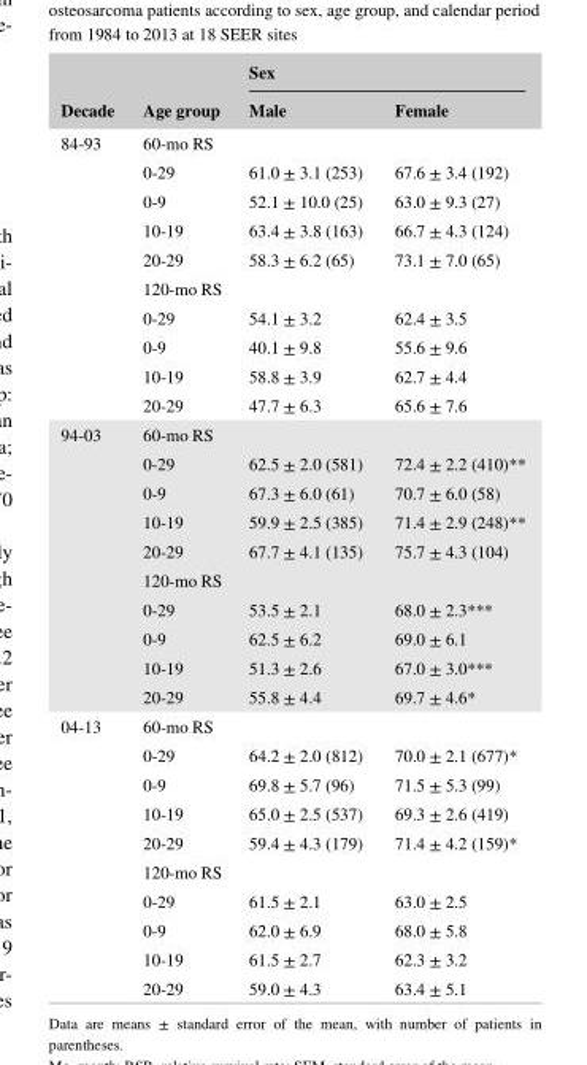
<table><thead><tr><td rowspan="2">Decade</td><td rowspan="2">Age group</td><td colspan="2">Sex</td></tr><tr><td>Male</td><td>Female</td></tr></thead><tbody><tr><td rowspan="10">84- 93</td><td colspan="3">60- mo RS</td></tr><tr><td>0- 29</td><td>61.0 ± 3.1 (253)</td><td>67.6 ± 3.4 (192)</td></tr><tr><td>0- 9</td><td>52.1 ± 10.0 (25)</td><td>63.0 ± 9.3 (27)</td></tr><tr><td>10- 19</td><td>63.4 ± 3.8 (163)</td><td>66.7 ± 4.3 (124)</td></tr><tr><td>20- 29</td><td>58.3 ± 6.2 (65)</td><td>73.1 ± 7.0 (65)</td></tr><tr><td colspan="3">120- mo RS</td></tr><tr><td>0- 29</td><td>54.1 ± 3.2</td><td>62.4 ± 3.5</td></tr><tr><td>0- 9</td><td>40.1 ± 9.8</td><td>55.6 ± 9.6</td></tr><tr><td>10- 19</td><td>58.8 ± 3.9</td><td>62.7 ± 4.4</td></tr><tr><td>20- 29</td><td>47.7 ± 6.3</td><td>65.6 ± 7.6</td></tr><tr><td rowspan="10">94- 03</td><td colspan="3">60- mo RS</td></tr><tr><td>0- 29</td><td>62.5 ± 2.0 (581)</td><td>72.4 ± 2.2 (410)**</td></tr><tr><td>0- 9</td><td>67.3 ± 6.0 (61)</td><td>70.7 ± 6.0 (58)</td></tr><tr><td>10- 19</td><td>59.9 ± 2.5 (385)</td><td>71.4 ± 2.9 (248)**</td></tr><tr><td>20- 29</td><td>67.7 ± 4.1 (135)</td><td>75.7 ± 4.3 (104)</td></tr><tr><td colspan="3">120- mo RS</td></tr><tr><td>0- 29</td><td>53.5 ± 2.1</td><td>68.0 ± 2.3***</td></tr><tr><td>0- 9</td><td>62.5 ± 6.2</td><td>69.0 ± 6.1</td></tr><tr><td>10- 19</td><td>51.3 ± 2.6</td><td>67.0 ± 3.0***</td></tr><tr><td>20- 29</td><td>55.8 ± 4.4</td><td>69.7 ± 4.6*</td></tr><tr><td rowspan="10">04- 13</td><td colspan="3">60- mo RS</td></tr><tr><td>0- 29</td><td>64.2 ± 2.0 (812)</td><td>70.0 ± 2.1 (677)*</td></tr><tr><td>0- 9</td><td>69.8 ± 5.7 (96)</td><td>71.5 ± 5.3 (99)</td></tr><tr><td>10- 19</td><td>65.0 ± 2.5 (537)</td><td>69.3 ± 2.6 (419)</td></tr><tr><td>20- 29</td><td>59.4 ± 4.3 (179)</td><td>71.4 ± 4.2 (159)*</td></tr><tr><td colspan="3">120- mo RS</td></tr><tr><td>0- 29</td><td>61.5 ± 2.1</td><td>63.0 ± 2.5</td></tr><tr><td>0- 9</td><td>62.0 ± 6.9</td><td>68.0 ± 5.8</td></tr><tr><td>10- 19</td><td>61.5 ± 2.7</td><td>62.3 ± 3.2</td></tr><tr><td>20- 29</td><td>59.0 ± 4.3</td><td>63.4 ± 5.1</td></tr></tbody></table>